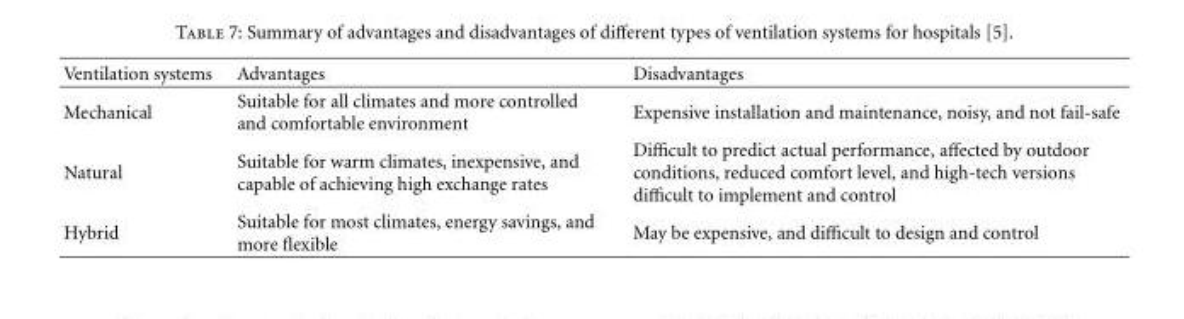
<table><thead><tr><td>Ventilation systems</td><td>Advantages</td><td>Disadvantages</td></tr></thead><tbody><tr><td>Mechanical</td><td>Suitable for all climates and more controlled and comfortable environment</td><td>Expensive installation and maintenance, noisy, and not fail-safe</td></tr><tr><td>Natural</td><td>Suitable for warm climates, inexpensive, and capable of achieving high exchange rates</td><td>Difficult to predict actual performance, affected by outdoor conditions, reduced comfort level, and high-tech versions difficult to implement and control</td></tr><tr><td>Hybrid</td><td>Suitable for most climates, energy savings, and more flexible</td><td>May be expensive, and difficult to design and control</td></tr></tbody></table>